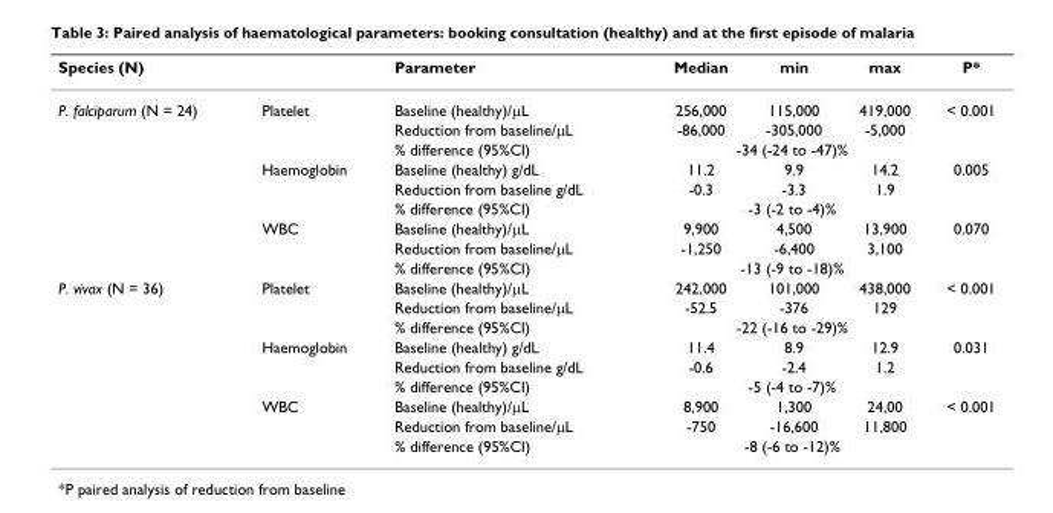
<table><thead><tr><td>Species (N)</td><td></td><td>Parameter</td><td>Median</td><td>min</td><td>max</td><td>P*</td></tr></thead><tbody><tr><td rowspan="9">P. falciparum (N = 24)</td><td>Platelet</td><td>Baseline (healthy)/μL</td><td>256,000</td><td>115,000</td><td>419,000</td><td>&lt; 0.001</td></tr><tr><td></td><td>Reduction from baseline/μL</td><td>-86,000</td><td>-305,000</td><td>-5,000</td><td></td></tr><tr><td></td><td>% difference (95%CI)</td><td colspan="3">-34 (-24 to -47)%</td><td></td></tr><tr><td>Haemoglobin</td><td>Baseline (healthy) g/dL</td><td>11.2</td><td>9.9</td><td>14.2</td><td>0.005</td></tr><tr><td></td><td>Reduction from baseline g/dL</td><td>-0.3</td><td>-3.3</td><td>1.9</td><td></td></tr><tr><td></td><td>% difference (95%CI)</td><td colspan="3">-3 (-2 to -4)%</td><td></td></tr><tr><td>WBC</td><td>Baseline (healthy)/μL</td><td>9,900</td><td>4,500</td><td>13,900</td><td>0.070</td></tr><tr><td></td><td>Reduction from baseline/μL</td><td>-1,250</td><td>-6,400</td><td>3,100</td><td></td></tr><tr><td></td><td>% difference (95%CI)</td><td colspan="3">-13 (-9 to -18)%</td><td></td></tr><tr><td rowspan="9">P. vivax (N = 36)</td><td>Platelet</td><td>Baseline (healthy)/μL</td><td>242,000</td><td>101,000</td><td>438,000</td><td>&lt; 0.001</td></tr><tr><td></td><td>Reduction from baseline/μL</td><td>-52.5</td><td>-376</td><td>129</td><td></td></tr><tr><td></td><td>% difference (95%CI)</td><td colspan="3">-22 (-16 to -29)%</td><td></td></tr><tr><td>Haemoglobin</td><td>Baseline (healthy) g/dL</td><td>11.4</td><td>8.9</td><td>12.9</td><td>0.031</td></tr><tr><td></td><td>Reduction from baseline g/dL</td><td>-0.6</td><td>-2.4</td><td>1.2</td><td></td></tr><tr><td></td><td>% difference (95%CI)</td><td colspan="3">-5 (-4 to -7)%</td><td></td></tr><tr><td>WBC</td><td>Baseline (healthy)/μL</td><td>8,900</td><td>1,300</td><td>24,00</td><td>&lt; 0.001</td></tr><tr><td></td><td>Reduction from baseline/μL</td><td>-750</td><td>-16,600</td><td>11,800</td><td></td></tr><tr><td></td><td>% difference (95%CI)</td><td colspan="3">-8 (-6 to -12)%</td><td></td></tr></tbody></table>